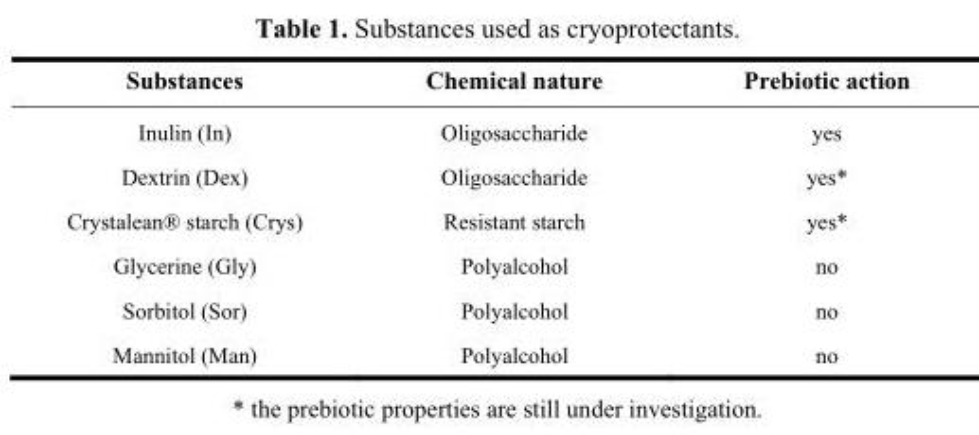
<table><thead><tr><td>Substances</td><td>Chemical nature</td><td>Prebiotic action</td></tr></thead><tbody><tr><td>Inulin (In)</td><td>Oligosaccharide</td><td>yes</td></tr><tr><td>Dextrin (Dex)</td><td>Oligosaccharide</td><td>yes*</td></tr><tr><td>Crystalean® starch (Crys)</td><td>Resistant starch</td><td>yes*</td></tr><tr><td>Glycerine (Gly)</td><td>Polyalcohol</td><td>no</td></tr><tr><td>Sorbitol (Sor)</td><td>Polyalcohol</td><td>no</td></tr><tr><td>Mannitol (Man)</td><td>Polyalcohol</td><td>no</td></tr></tbody></table>